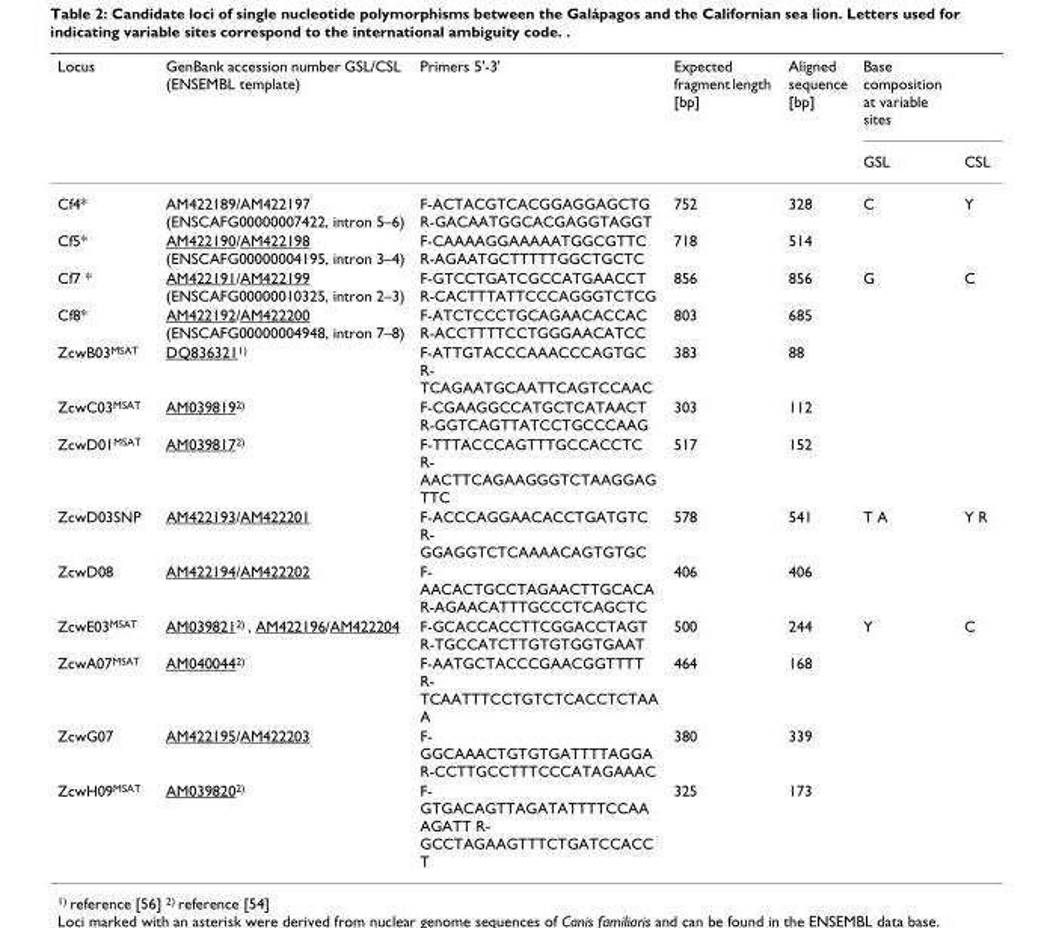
<table><thead><tr><td rowspan="2">Locus</td><td rowspan="2">GenBank accession number GSL/CSL (ENSEMBL template)</td><td rowspan="2">Primers 5&#x27;-3&#x27;</td><td rowspan="2">Expected fragment length [bp]</td><td rowspan="2">Aligned sequence [bp]</td><td rowspan="2">Base composition at variable sites GSL</td><td rowspan="2">CSL</td></tr><tr></tr></thead><tbody><tr><td>Cf4*</td><td>AM422189/AM422197 (ENSCAFG00000007422, intron 5–6)</td><td>F-ACTACGTCACGGAGGAGCTG R-GACAATGGCACGAGGTAGGT</td><td>752</td><td>328</td><td>C</td><td>Y</td></tr><tr><td>Cf5*</td><td>AM422190/AM422198 (ENSCAFG00000004195, intron 3–4)</td><td>F-CAAAAGGAAAAATGGCGTTC R-AGAATGCTTTTTGGCTGCTC</td><td>718</td><td>514</td><td></td><td></td></tr><tr><td>Cf7 *</td><td>AM422191/AM422199 (ENSCAFG00000010325, intron 2–3)</td><td>F-GTCCTGATCGCCATGAACCT R-CACTTTATTCCCAGGGTCTCG</td><td>856</td><td>856</td><td>G</td><td>C</td></tr><tr><td>Cf8*</td><td>AM422192/AM422200 (ENSCAFG00000004948, intron 7–8)</td><td>F-ATCTCCCTGCAGAACACCAC R-ACCTTTTCCTGGGAACATCC</td><td>803</td><td>685</td><td></td><td></td></tr><tr><td>ZcwB03<sup>MSAT</sup></td><td>DQ836321<sup>1)</sup></td><td>F-ATTGTACCCAAACCCAGTGC R- TCAGAATGCAATTCAGTCCAAC</td><td>383</td><td>88</td><td></td><td></td></tr><tr><td>ZcwC03<sup>MSAT</sup></td><td>AM039819<sup>2)</sup></td><td>F-CGAAGGCCATGCTCATAACT R-GGTCAGTTATCCTGCCCAAG</td><td>303</td><td>112</td><td></td><td></td></tr><tr><td>ZcwD01<sup>MSAT</sup></td><td>AM039817<sup>2)</sup></td><td>F-TTTACCCAGTTTGCCACCTC R- AACTTCAGAAGGGTCTAAGGAG TTC</td><td>517</td><td>152</td><td></td><td></td></tr><tr><td>ZcwD03SNP</td><td>AM422193/AM422201</td><td>F-ACCCAGGAACACCTGATGTC R- GGAGGTCTCAAAACAGTGTGC</td><td>578</td><td>541</td><td>T A</td><td>Y R</td></tr><tr><td>ZcwD08</td><td>AM422194/AM422202</td><td>F- AACACTGCCTAGAACTTGCACA R-AGAACATTTGCCCTCAGCTC</td><td>406</td><td>406</td><td></td><td></td></tr><tr><td>ZcwE03<sup>MSAT</sup></td><td>AM039821<sup>2)</sup> , AM422196/AM422204</td><td>F-GCACCACCTTCGGACCTAGT R-TGCCATCTTGTGTGGTGAAT</td><td>500</td><td>244</td><td>Y</td><td>C</td></tr><tr><td>ZcwA07<sup>MSAT</sup></td><td>AM040044<sup>2)</sup></td><td>F-AATGCTACCCGAACGGTTTT R- TCAATTTCCTGTCTCACCTCTAA A</td><td>464</td><td>168</td><td></td><td></td></tr><tr><td>ZcwG07</td><td>AM422195/AM422203</td><td>F- GGCAAACTGTGTGATTTTAGGA R-CCTTGCCTTTCCCATAGAAAC</td><td>380</td><td>339</td><td></td><td></td></tr><tr><td>ZcwH09<sup>MSAT</sup></td><td>AM039820<sup>2)</sup></td><td>F- GTGACAGTTAGATATTTTCCAA AGATT R- GCCTAGAAGTTTCTGATCCACC T</td><td>325</td><td>173</td><td></td><td></td></tr></tbody></table>